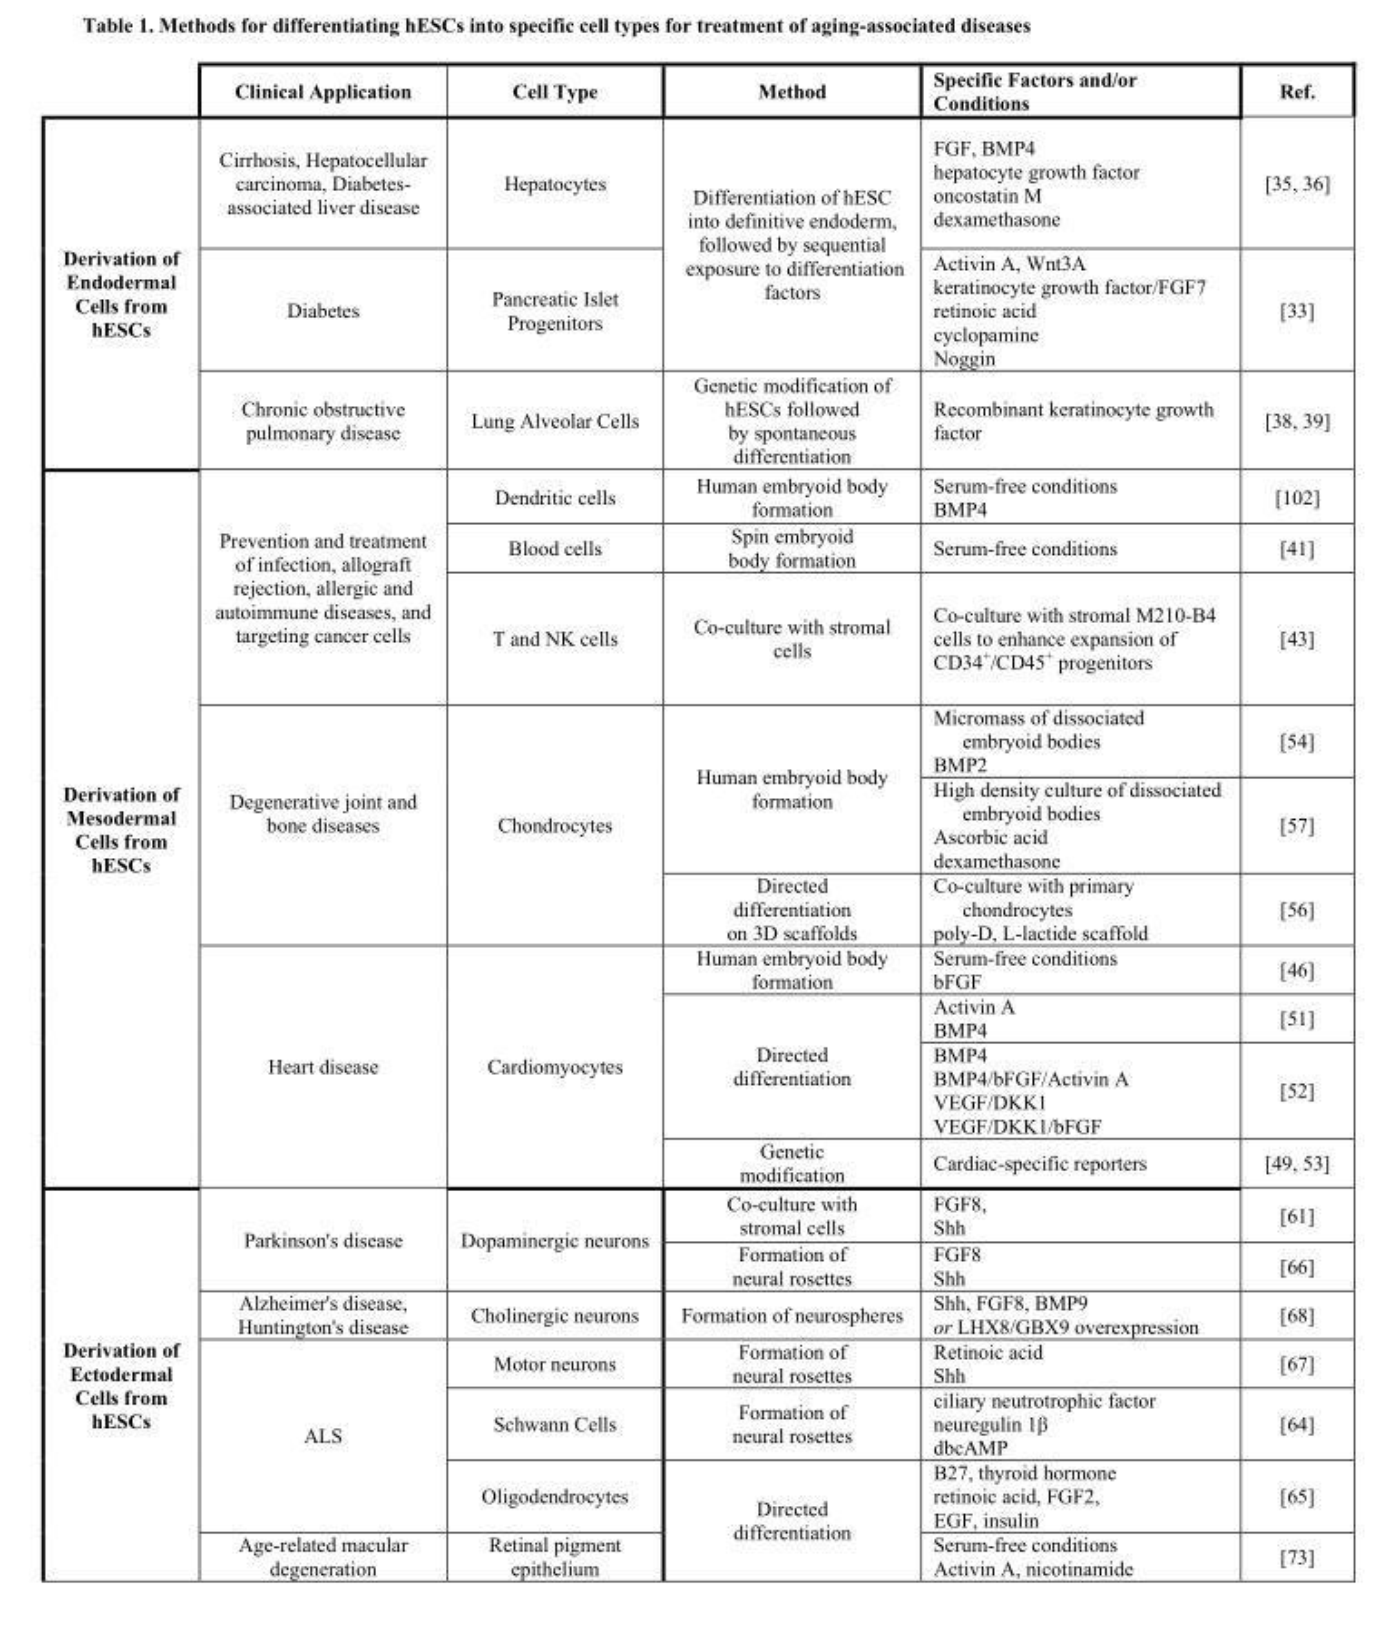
<table><thead><tr><td></td><td>Clinical Application</td><td>Cell Type</td><td>Method</td><td>Specific Factors and/or Conditions</td><td>Ref.</td></tr></thead><tbody><tr><td rowspan="3">Derivation of Endodermal Cells from hESCs</td><td>Cirrhosis, Hepatocellular carcinoma, Diabetes- associated liver disease</td><td>Hepatocytes</td><td rowspan="2">Differentiation of hESC into definitive endoderm, followed by sequential exposure to differentiation factors</td><td>FGF, BMP4 hepatocyte growth factor oncostatin M dexamethasone</td><td>[35, 36]</td></tr><tr><td>Diabetes</td><td>Pancreatic Islet Progenitors</td><td>Activin A, Wnt3A keratinocyte growth factor/FGF7 retinoic acid cyclopamine Noggin</td><td>[33]</td></tr><tr><td>Chronic obstructive pulmonary disease</td><td>Lung Alveolar Cells</td><td>Genetic modification of hESCs followed by spontaneous differentiation</td><td>Recombinant keratinocyte growth factor</td><td>[38, 39]</td></tr><tr><td rowspan="10">Derivation of Mesodermal Cells from hESCs</td><td rowspan="3">Prevention and treatment of infection, allograft rejection, allergic and autoimmune diseases, and targeting cancer cells</td><td>Dendritic cells</td><td>Human embryoid body formation</td><td>Serum-free conditions BMP4</td><td>[102]</td></tr><tr><td>Blood cells</td><td>Spin embryoid body formation</td><td>Serum-free conditions</td><td>[41]</td></tr><tr><td>T and NK cells</td><td>Co-culture with stromal cells</td><td>Co-culture with stromal M210-B4 cells to enhance expansion of CD34<sup>+</sup>/CD45<sup>+</sup> progenitors</td><td>[43]</td></tr><tr><td rowspan="3">Degenerative joint and bone diseases</td><td rowspan="3">Chondrocytes</td><td rowspan="2">Human embryoid body formation</td><td>Micromass of dissociated embryoid bodies BMP2</td><td>[54]</td></tr><tr><td>High density culture of dissociated embryoid bodies Ascorbic acid dexamethasone</td><td>[57]</td></tr><tr><td>Directed differentiation on 3D scaffolds</td><td>Co-culture with primary chondrocytes poly-D, L-lactide scaffold</td><td>[56]</td></tr><tr><td rowspan="4">Heart disease</td><td rowspan="4">Cardiomyocytes</td><td>Human embryoid body formation</td><td>Serum-free conditions bFGF</td><td>[46]</td></tr><tr><td rowspan="2">Directed differentiation</td><td>Activin A BMP4</td><td>[51]</td></tr><tr><td>BMP4 BMP4/bFGF/Activin A VEGF/DKK1 VEGF/DKK1/bFGF</td><td>[52]</td></tr><tr><td>Genetic modification</td><td>Cardiac-specific reporters</td><td>[49, 53]</td></tr><tr><td rowspan="7">Derivation of Ectodermal Cells from hESCs</td><td rowspan="2">Parkinson&#x27;s disease</td><td rowspan="2">Dopaminergic neurons</td><td>Co-culture with stromal cells</td><td>FGF8, Shh</td><td>[61]</td></tr><tr><td>Formation of neural rosettes</td><td>FGF8 Shh</td><td>[66]</td></tr><tr><td>Alzheimer&#x27;s disease, Huntington&#x27;s disease</td><td>Cholinergic neurons</td><td>Formation of neurospheres</td><td>Shh, FGF8, BMP9 or LHX8/GBX9 overexpression</td><td>[68]</td></tr><tr><td rowspan="3">ALS</td><td>Motor neurons</td><td>Formation of neural rosettes</td><td>Retinoic acid Shh</td><td>[67]</td></tr><tr><td>Schwann Cells</td><td>Formation of neural rosettes</td><td>ciliary neutrotrophic factor neuregulin 1β dbcAMP</td><td>[64]</td></tr><tr><td>Oligodendrocytes</td><td rowspan="2">Directed differentiation</td><td>B27, thyroid hormone retinoic acid, FGF2, EGF, insulin</td><td>[65]</td></tr><tr><td>Age-related macular degeneration</td><td>Retinal pigment epithelium</td><td>Serum-free conditions Activin A, nicotinamide</td><td>[73]</td></tr></tbody></table>